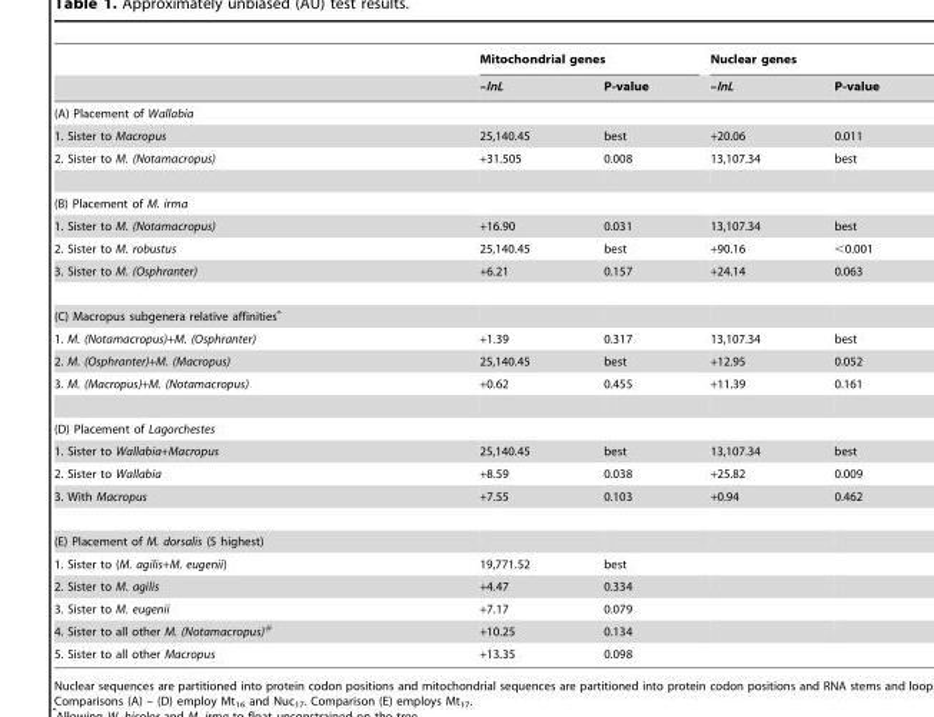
<table><thead><tr><td rowspan="2"></td><td colspan="2">Mitochondrial genes</td><td colspan="2">Nuclear genes</td></tr><tr><td>–lnL</td><td>P-value</td><td>–lnL</td><td>P-value</td></tr></thead><tbody><tr><td colspan="5">(A) Placement of Wallabia</td></tr><tr><td>1. Sister to Macropus</td><td>25,140.45</td><td>best</td><td>+20.06</td><td>0.011</td></tr><tr><td>2. Sister to M. (Notamacropus)</td><td>+31.505</td><td>0.008</td><td>13,107.34</td><td>best</td></tr><tr><td colspan="5">(B) Placement of M. irma</td></tr><tr><td>1. Sister to M. (Notamacropus)</td><td>+16.90</td><td>0.031</td><td>13,107.34</td><td>best</td></tr><tr><td>2. Sister to M. robustus</td><td>25,140.45</td><td>best</td><td>+90.16</td><td>&lt;0.001</td></tr><tr><td>3. Sister to M. (Osphranter)</td><td>+6.21</td><td>0.157</td><td>+24.14</td><td>0.063</td></tr><tr><td colspan="5">(C) Macropus subgenera relative affinitiesˆ</td></tr><tr><td>1. M. (Notamacropus)+M. (Osphranter)</td><td>+1.39</td><td>0.317</td><td>13,107.34</td><td>best</td></tr><tr><td>2. M. (Osphranter)+M. (Macropus)</td><td>25,140.45</td><td>best</td><td>+12.95</td><td>0.052</td></tr><tr><td>3. M. (Macropus)+M. (Notamacropus)</td><td>+0.62</td><td>0.455</td><td>+11.39</td><td>0.161</td></tr><tr><td colspan="5">(D) Placement of Lagorchestes</td></tr><tr><td>1. Sister to Wallabia+Macropus</td><td>25,140.45</td><td>best</td><td>13,107.34</td><td>best</td></tr><tr><td>2. Sister to Wallabia</td><td>+8.59</td><td>0.038</td><td>+25.82</td><td>0.009</td></tr><tr><td>3. With Macropus</td><td>+7.55</td><td>0.103</td><td>+0.94</td><td>0.462</td></tr><tr><td colspan="5">(E) Placement of M. dorsalis (5 highest)</td></tr><tr><td>1. Sister to (M. agilis+M. eugenii)</td><td>19,771.52</td><td>best</td><td></td><td></td></tr><tr><td>2. Sister to M. agilis</td><td>+4.47</td><td>0.334</td><td></td><td></td></tr><tr><td>3. Sister to M. eugenii</td><td>+7.17</td><td>0.079</td><td></td><td></td></tr><tr><td>4. Sister to all other M. (Notamacropus)#</td><td>+10.25</td><td>0.134</td><td></td><td></td></tr><tr><td>5. Sister to all other Macropus</td><td>+13.35</td><td>0.098</td><td></td><td></td></tr></tbody></table>